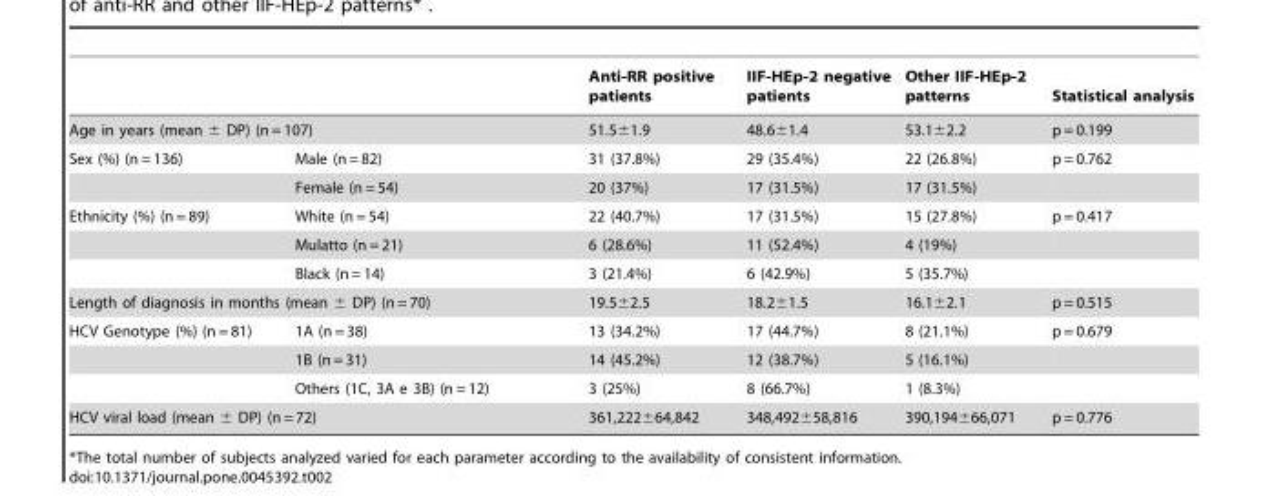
<table><thead><tr><td></td><td></td><td>Anti-RR positive patients</td><td>IIF-HEp-2 negative patients</td><td>Other IIF-HEp-2 patterns</td><td>Statistical analysis</td></tr></thead><tbody><tr><td colspan="2">Age in years (mean ± DP) (n = 107)</td><td>51.5±1.9</td><td>48.6±1.4</td><td>53.1±2.2</td><td>p = 0.199</td></tr><tr><td rowspan="2">Sex (%) (n = 136)</td><td>Male (n = 82)</td><td>31 (37.8%)</td><td>29 (35.4%)</td><td>22 (26.8%)</td><td>p = 0.762</td></tr><tr><td>Female (n = 54)</td><td>20 (37%)</td><td>17 (31.5%)</td><td>17 (31.5%)</td><td></td></tr><tr><td rowspan="3">Ethnicity (%) (n = 89)</td><td>White (n = 54)</td><td>22 (40.7%)</td><td>17 (31.5%)</td><td>15 (27.8%)</td><td>p = 0.417</td></tr><tr><td>Mulatto (n = 21)</td><td>6 (28.6%)</td><td>11 (52.4%)</td><td>4 (19%)</td><td></td></tr><tr><td>Black (n = 14)</td><td>3 (21.4%)</td><td>6 (42.9%)</td><td>5 (35.7%)</td><td></td></tr><tr><td colspan="2">Length of diagnosis in months (mean ± DP) (n = 70)</td><td>19.5±2.5</td><td>18.2±1.5</td><td>16.1±2.1</td><td>p = 0.515</td></tr><tr><td rowspan="3">HCV Genotype (%) (n = 81)</td><td>1A (n = 38)</td><td>13 (34.2%)</td><td>17 (44.7%)</td><td>8 (21.1%)</td><td>p = 0.679</td></tr><tr><td>1B (n = 31)</td><td>14 (45.2%)</td><td>12 (38.7%)</td><td>5 (16.1%)</td><td></td></tr><tr><td>Others (1C, 3A e 3B) (n = 12)</td><td>3 (25%)</td><td>8 (66.7%)</td><td>1 (8.3%)</td><td></td></tr><tr><td colspan="2">HCV viral load (mean ± DP) (n = 72)</td><td>361,222±64,842</td><td>348,492±58,816</td><td>390,194±66,071</td><td>p = 0.776</td></tr></tbody></table>